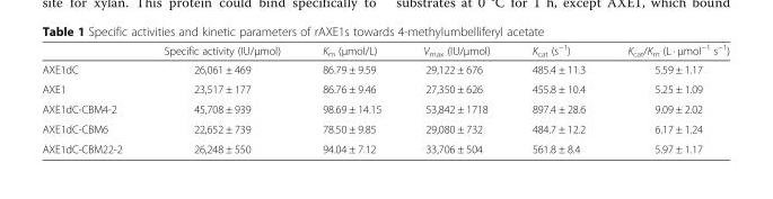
<table><thead><tr><td></td><td>Specific activity (IU/μmol)</td><td>K<sub>m</sub> (μmol/L)</td><td>V<sub>max</sub> (IU/μmol)</td><td>K<sub>cat</sub> (s<sup>−1</sup>)</td><td>K<sub>cat</sub>/K<sub>m</sub> (L · μmol<sup>−1</sup> s<sup>−1</sup>)</td></tr></thead><tbody><tr><td>AXE1dC</td><td>26,061 ± 469</td><td>86.79 ± 9.59</td><td>29,122 ± 676</td><td>485.4 ± 11.3</td><td>5.59 ± 1.17</td></tr><tr><td>AXE1</td><td>23,517 ± 177</td><td>86.76 ± 9.46</td><td>27,350 ± 626</td><td>455.8 ± 10.4</td><td>5.25 ± 1.09</td></tr><tr><td>AXE1dC-CBM4-2</td><td>45,708 ± 939</td><td>98.69 ± 14.15</td><td>53,842 ± 1718</td><td>897.4 ± 28.6</td><td>9.09 ± 2.02</td></tr><tr><td>AXE1dC-CBM6</td><td>22,652 ± 739</td><td>78.50 ± 9.85</td><td>29,080 ± 732</td><td>484.7 ± 12.2</td><td>6.17 ± 1.24</td></tr><tr><td>AXE1dC-CBM22-2</td><td>26,248 ± 550</td><td>94.04 ± 7.12</td><td>33,706 ± 504</td><td>561.8 ± 8.4</td><td>5.97 ± 1.17</td></tr></tbody></table>